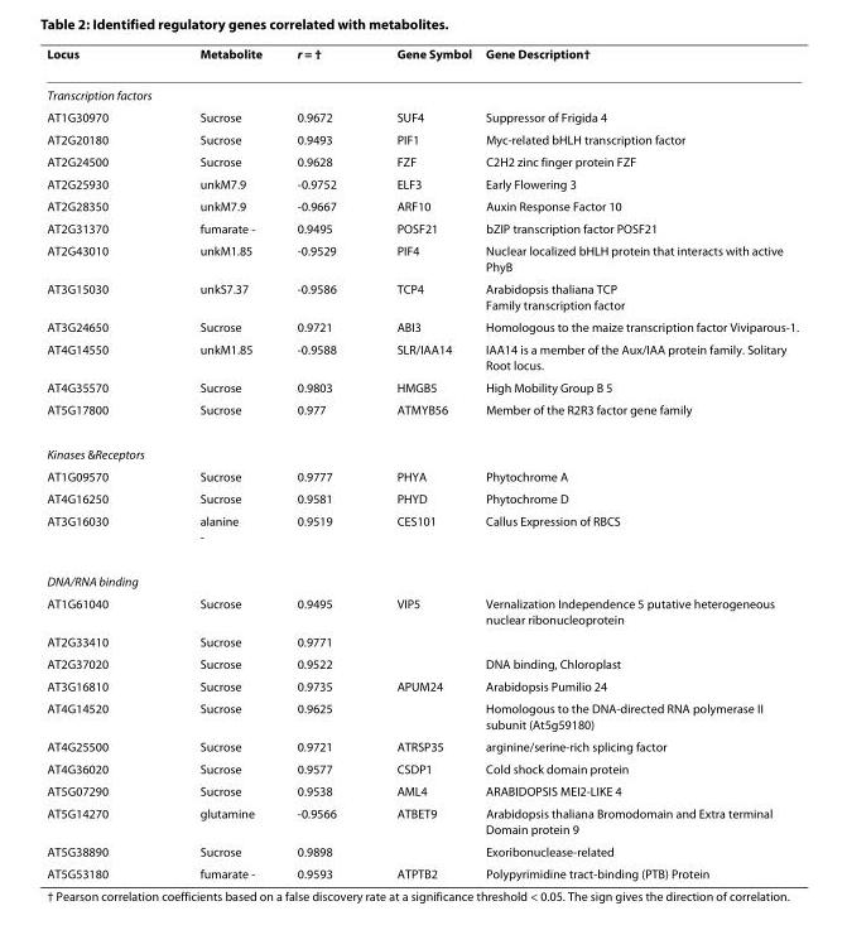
<table><thead><tr><td>Locus</td><td>Metabolite</td><td>r = †</td><td>Gene Symbol</td><td>Gene Description†</td></tr></thead><tbody><tr><td colspan="5">Transcription factors</td></tr><tr><td>AT1G30970</td><td>Sucrose</td><td>0.9672</td><td>SUF4</td><td>Suppressor of Frigida 4</td></tr><tr><td>AT2G20180</td><td>Sucrose</td><td>0.9493</td><td>PIF1</td><td>Myc-related bHLH transcription factor</td></tr><tr><td>AT2G24500</td><td>Sucrose</td><td>0.9628</td><td>FZF</td><td>C2H2 zinc finger protein FZF</td></tr><tr><td>AT2G25930</td><td>unkM7.9</td><td>-0.9752</td><td>ELF3</td><td>Early Flowering 3</td></tr><tr><td>AT2G28350</td><td>unkM7.9</td><td>-0.9667</td><td>ARF10</td><td>Auxin Response Factor 10</td></tr><tr><td>AT2G31370</td><td>fumarate -</td><td>0.9495</td><td>POSF21</td><td>bZIP transcription factor POSF21</td></tr><tr><td>AT2G43010</td><td>unkM1.85</td><td>-0.9529</td><td>PIF4</td><td>Nuclear localized bHLH protein that interacts with active PhyB</td></tr><tr><td>AT3G15030</td><td>unkS7.37</td><td>-0.9586</td><td>TCP4</td><td>Arabidopsis thaliana TCP Family transcription factor</td></tr><tr><td>AT3G24650</td><td>Sucrose</td><td>0.9721</td><td>ABI3</td><td>Homologous to the maize transcription factor Viviparous-1.</td></tr><tr><td>AT4G14550</td><td>unkM1.85</td><td>-0.9588</td><td>SLR/IAA14</td><td>IAA14 is a member of the Aux/IAA protein family. Solitary Root locus.</td></tr><tr><td>AT4G35570</td><td>Sucrose</td><td>0.9803</td><td>HMGB5</td><td>High Mobility Group B 5</td></tr><tr><td>AT5G17800</td><td>Sucrose</td><td>0.977</td><td>ATMYB56</td><td>Member of the R2R3 factor gene family</td></tr><tr><td colspan="5">Kinases &amp;Receptors</td></tr><tr><td>AT1G09570</td><td>Sucrose</td><td>0.9777</td><td>PHYA</td><td>Phytochrome A</td></tr><tr><td>AT4G16250</td><td>Sucrose</td><td>0.9581</td><td>PHYD</td><td>Phytochrome D</td></tr><tr><td>AT3G16030</td><td>alanine -</td><td>0.9519</td><td>CES101</td><td>Callus Expression of RBCS</td></tr><tr><td colspan="5">DNA/RNA binding</td></tr><tr><td>AT1G61040</td><td>Sucrose</td><td>0.9495</td><td>VIP5</td><td>Vernalization Independence 5 putative heterogeneous nuclear ribonucleoprotein</td></tr><tr><td>AT2G33410</td><td>Sucrose</td><td>0.9771</td><td></td><td></td></tr><tr><td>AT2G37020</td><td>Sucrose</td><td>0.9522</td><td></td><td>DNA binding, Chloroplast</td></tr><tr><td>AT3G16810</td><td>Sucrose</td><td>0.9735</td><td>APUM24</td><td>Arabidopsis Pumilio 24</td></tr><tr><td>AT4G14520</td><td>Sucrose</td><td>0.9625</td><td></td><td>Homologous to the DNA-directed RNA polymerase II subunit (At5g59180)</td></tr><tr><td>AT4G25500</td><td>Sucrose</td><td>0.9721</td><td>ATRSP35</td><td>arginine/serine-rich splicing factor</td></tr><tr><td>AT4G36020</td><td>Sucrose</td><td>0.9577</td><td>CSDP1</td><td>Cold shock domain protein</td></tr><tr><td>AT5G07290</td><td>Sucrose</td><td>0.9538</td><td>AML4</td><td>ARABIDOPSIS MEI2-LIKE 4</td></tr><tr><td>AT5G14270</td><td>glutamine</td><td>-0.9566</td><td>ATBET9</td><td>Arabidopsis thaliana Bromodomain and Extra terminal Domain protein 9</td></tr><tr><td>AT5G38890</td><td>Sucrose</td><td>0.9898</td><td></td><td>Exoribonuclease-related</td></tr><tr><td>AT5G53180</td><td>fumarate -</td><td>0.9593</td><td>ATPTB2</td><td>Polypyrimidine tract-binding (PTB) Protein</td></tr></tbody></table>